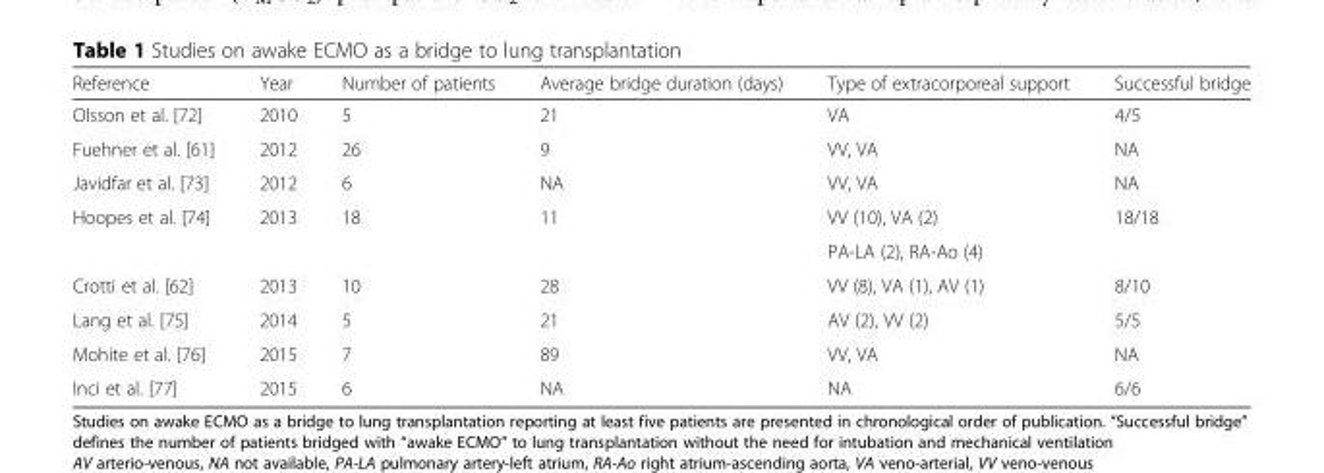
<table><thead><tr><td>Reference</td><td>Year</td><td>Number of patients</td><td>Average bridge duration (days)</td><td>Type of extracorporeal support</td><td>Successful bridge</td></tr></thead><tbody><tr><td>Olsson et al. [72]</td><td>2010</td><td>5</td><td>21</td><td>VA</td><td>4/5</td></tr><tr><td>Fuehner et al. [61]</td><td>2012</td><td>26</td><td>9</td><td>VV, VA</td><td>NA</td></tr><tr><td>Javidfar et al. [73]</td><td>2012</td><td>6</td><td>NA</td><td>VV, VA</td><td>NA</td></tr><tr><td rowspan="2">Hoopes et al. [74]</td><td rowspan="2">2013</td><td rowspan="2">18</td><td rowspan="2">11</td><td>VV (10), VA (2)</td><td rowspan="2">18/18</td></tr><tr><td>PA-LA (2), RA-Ao (4)</td></tr><tr><td>Crotti et al. [62]</td><td>2013</td><td>10</td><td>28</td><td>VV (8), VA (1), AV (1)</td><td>8/10</td></tr><tr><td>Lang et al. [75]</td><td>2014</td><td>5</td><td>21</td><td>AV (2), VV (2)</td><td>5/5</td></tr><tr><td>Mohite et al. [76]</td><td>2015</td><td>7</td><td>89</td><td>VV, VA</td><td>NA</td></tr><tr><td>Inci et al. [77]</td><td>2015</td><td>6</td><td>NA</td><td>NA</td><td>6/6</td></tr></tbody></table>